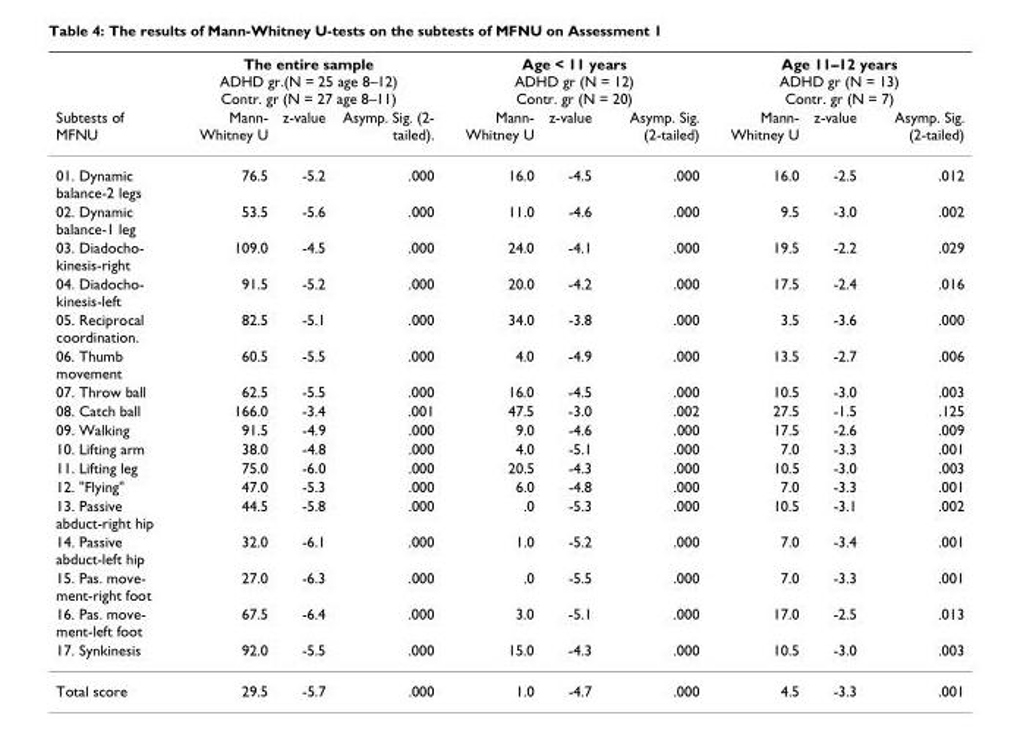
<table><thead><tr><td rowspan="2">Subtests of MFNU</td><td colspan="3">The entire sample ADHD gr.(N = 25 age 8–12) Contr. gr (N = 27 age 8–11)</td><td colspan="3">Age &lt; 11 years ADHD gr (N = 12) Contr. gr (N = 20)</td><td colspan="3">Age 11–12 years ADHD gr (N = 13) Contr. gr (N = 7)</td></tr><tr><td>Mann- Whitney U</td><td>z-value</td><td>Asymp. Sig. (2- tailed).</td><td>Mann- Whitney U</td><td>z-value</td><td>Asymp. Sig. (2-tailed)</td><td>Mann- Whitney U</td><td>z-value</td><td>Asymp. Sig. (2-tailed)</td></tr></thead><tbody><tr><td>01. Dynamic balance-2 legs</td><td>76.5</td><td>-5.2</td><td>.000</td><td>16.0</td><td>-4.5</td><td>.000</td><td>16.0</td><td>-2.5</td><td>.012</td></tr><tr><td>02. Dynamic balance-1 leg</td><td>53.5</td><td>-5.6</td><td>.000</td><td>11.0</td><td>-4.6</td><td>.000</td><td>9.5</td><td>-3.0</td><td>.002</td></tr><tr><td>03. Diadocho- kinesis-right</td><td>109.0</td><td>-4.5</td><td>.000</td><td>24.0</td><td>-4.1</td><td>.000</td><td>19.5</td><td>-2.2</td><td>.029</td></tr><tr><td>04. Diadocho- kinesis-left</td><td>91.5</td><td>-5.2</td><td>.000</td><td>20.0</td><td>-4.2</td><td>.000</td><td>17.5</td><td>-2.4</td><td>.016</td></tr><tr><td>05. Reciprocal coordination.</td><td>82.5</td><td>-5.1</td><td>.000</td><td>34.0</td><td>-3.8</td><td>.000</td><td>3.5</td><td>-3.6</td><td>.000</td></tr><tr><td>06. Thumb movement</td><td>60.5</td><td>-5.5</td><td>.000</td><td>4.0</td><td>-4.9</td><td>.000</td><td>13.5</td><td>-2.7</td><td>.006</td></tr><tr><td>07. Throw ball</td><td>62.5</td><td>-5.5</td><td>.000</td><td>16.0</td><td>-4.5</td><td>.000</td><td>10.5</td><td>-3.0</td><td>.003</td></tr><tr><td>08. Catch ball</td><td>166.0</td><td>-3.4</td><td>.001</td><td>47.5</td><td>-3.0</td><td>.002</td><td>27.5</td><td>-1.5</td><td>.125</td></tr><tr><td>09. Walking</td><td>91.5</td><td>-4.9</td><td>.000</td><td>9.0</td><td>-4.6</td><td>.000</td><td>17.5</td><td>-2.6</td><td>.009</td></tr><tr><td>10. Lifting arm</td><td>38.0</td><td>-4.8</td><td>.000</td><td>4.0</td><td>-5.1</td><td>.000</td><td>7.0</td><td>-3.3</td><td>.001</td></tr><tr><td>11. Lifting leg</td><td>75.0</td><td>-6.0</td><td>.000</td><td>20.5</td><td>-4.3</td><td>.000</td><td>10.5</td><td>-3.0</td><td>.003</td></tr><tr><td>12. &quot;Flying&quot;</td><td>47.0</td><td>-5.3</td><td>.000</td><td>6.0</td><td>-4.8</td><td>.000</td><td>7.0</td><td>-3.3</td><td>.001</td></tr><tr><td>13. Passive abduct-right hip</td><td>44.5</td><td>-5.8</td><td>.000</td><td>.0</td><td>-5.3</td><td>.000</td><td>10.5</td><td>-3.1</td><td>.002</td></tr><tr><td>14. Passive abduct-left hip</td><td>32.0</td><td>-6.1</td><td>.000</td><td>1.0</td><td>-5.2</td><td>.000</td><td>7.0</td><td>-3.4</td><td>.001</td></tr><tr><td>15. Pas. move- ment-right foot</td><td>27.0</td><td>-6.3</td><td>.000</td><td>.0</td><td>-5.5</td><td>.000</td><td>7.0</td><td>-3.3</td><td>.001</td></tr><tr><td>16. Pas. move- ment-left foot</td><td>67.5</td><td>-6.4</td><td>.000</td><td>3.0</td><td>-5.1</td><td>.000</td><td>17.0</td><td>-2.5</td><td>.013</td></tr><tr><td>17. Synkinesis</td><td>92.0</td><td>-5.5</td><td>.000</td><td>15.0</td><td>-4.3</td><td>.000</td><td>10.5</td><td>-3.0</td><td>.003</td></tr><tr><td>Total score</td><td>29.5</td><td>-5.7</td><td>.000</td><td>1.0</td><td>-4.7</td><td>.000</td><td>4.5</td><td>-3.3</td><td>.001</td></tr></tbody></table>